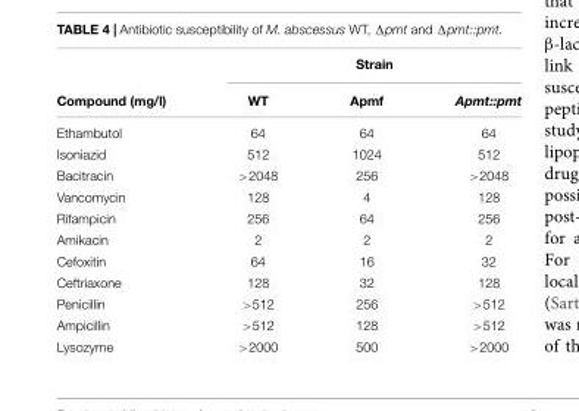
<table><thead><tr><td rowspan="2">Compound (mg/l)</td><td colspan="3">Strain</td></tr><tr><td>WT</td><td>Apmf</td><td>Apmt::pmt</td></tr></thead><tbody><tr><td>Ethambutol</td><td>64</td><td>64</td><td>64</td></tr><tr><td>Isoniazid</td><td>512</td><td>1024</td><td>512</td></tr><tr><td>Bacitracin</td><td>&gt;2048</td><td>256</td><td>&gt;2048</td></tr><tr><td>Vancomycin</td><td>128</td><td>4</td><td>128</td></tr><tr><td>Rifampicin</td><td>256</td><td>64</td><td>256</td></tr><tr><td>Amikacin</td><td>2</td><td>2</td><td>2</td></tr><tr><td>Cefoxitin</td><td>64</td><td>16</td><td>32</td></tr><tr><td>Ceftriaxone</td><td>128</td><td>32</td><td>128</td></tr><tr><td>Penicillin</td><td>&gt;512</td><td>256</td><td>&gt;512</td></tr><tr><td>Ampicillin</td><td>&gt;512</td><td>128</td><td>&gt;512</td></tr><tr><td>Lysozyme</td><td>&gt;2000</td><td>500</td><td>&gt;2000</td></tr></tbody></table>